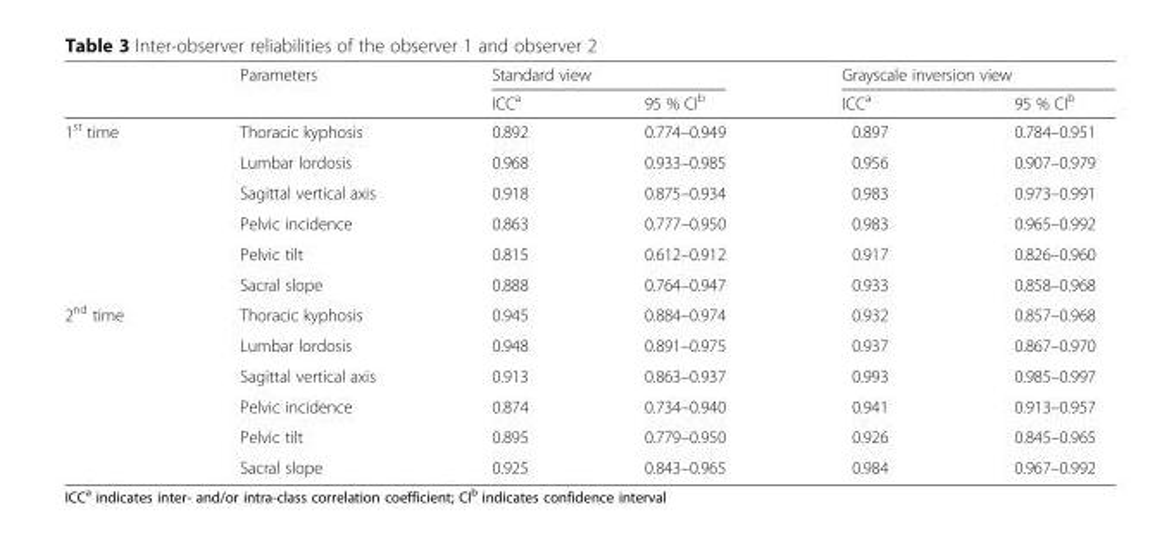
<table><thead><tr><td rowspan="2"></td><td rowspan="2">Parameters</td><td colspan="2">Standard view</td><td colspan="2">Grayscale inversion view</td></tr><tr><td>ICC<sup>a</sup></td><td>95 % CI<sup>b</sup></td><td>ICC<sup>a</sup></td><td>95 % CI<sup>b</sup></td></tr></thead><tbody><tr><td rowspan="6">1<sup>st</sup> time</td><td>Thoracic kyphosis</td><td>0.892</td><td>0.774–0.949</td><td>0.897</td><td>0.784–0.951</td></tr><tr><td>Lumbar lordosis</td><td>0.968</td><td>0.933–0.985</td><td>0.956</td><td>0.907–0.979</td></tr><tr><td>Sagittal vertical axis</td><td>0.918</td><td>0.875–0.934</td><td>0.983</td><td>0.973–0.991</td></tr><tr><td>Pelvic incidence</td><td>0.863</td><td>0.777–0.950</td><td>0.983</td><td>0.965–0.992</td></tr><tr><td>Pelvic tilt</td><td>0.815</td><td>0.612–0.912</td><td>0.917</td><td>0.826–0.960</td></tr><tr><td>Sacral slope</td><td>0.888</td><td>0.764–0.947</td><td>0.933</td><td>0.858–0.968</td></tr><tr><td rowspan="6">2<sup>nd</sup> time</td><td>Thoracic kyphosis</td><td>0.945</td><td>0.884–0.974</td><td>0.932</td><td>0.857–0.968</td></tr><tr><td>Lumbar lordosis</td><td>0.948</td><td>0.891–0.975</td><td>0.937</td><td>0.867–0.970</td></tr><tr><td>Sagittal vertical axis</td><td>0.913</td><td>0.863–0.937</td><td>0.993</td><td>0.985–0.997</td></tr><tr><td>Pelvic incidence</td><td>0.874</td><td>0.734–0.940</td><td>0.941</td><td>0.913–0.957</td></tr><tr><td>Pelvic tilt</td><td>0.895</td><td>0.779–0.950</td><td>0.926</td><td>0.845–0.965</td></tr><tr><td>Sacral slope</td><td>0.925</td><td>0.843–0.965</td><td>0.984</td><td>0.967–0.992</td></tr></tbody></table>